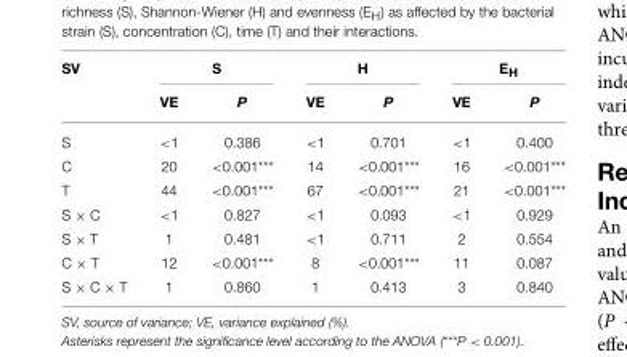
<table><thead><tr><td rowspan="2">SV</td><td colspan="2">S</td><td colspan="2">H</td><td colspan="2">E<sub>H</sub></td></tr><tr><td>VE</td><td>P</td><td>VE</td><td>P</td><td>VE</td><td>P</td></tr></thead><tbody><tr><td>S</td><td>&lt;1</td><td>0.386</td><td>&lt;1</td><td>0.701</td><td>&lt;1</td><td>0.400</td></tr><tr><td>C</td><td>20</td><td>&lt;0.001***</td><td>14</td><td>&lt;0.001***</td><td>16</td><td>&lt;0.001***</td></tr><tr><td>T</td><td>44</td><td>&lt;0.001***</td><td>67</td><td>&lt;0.001***</td><td>21</td><td>&lt;0.001***</td></tr><tr><td>S × C</td><td>&lt;1</td><td>0.827</td><td>&lt;1</td><td>0.093</td><td>&lt;1</td><td>0.929</td></tr><tr><td>S × T</td><td>1</td><td>0.481</td><td>&lt;1</td><td>0.711</td><td>2</td><td>0.554</td></tr><tr><td>C × T</td><td>12</td><td>&lt;0.001***</td><td>8</td><td>&lt;0.001***</td><td>11</td><td>0.087</td></tr><tr><td>S × C × T</td><td>1</td><td>0.860</td><td>1</td><td>0.413</td><td>3</td><td>0.840</td></tr></tbody></table>